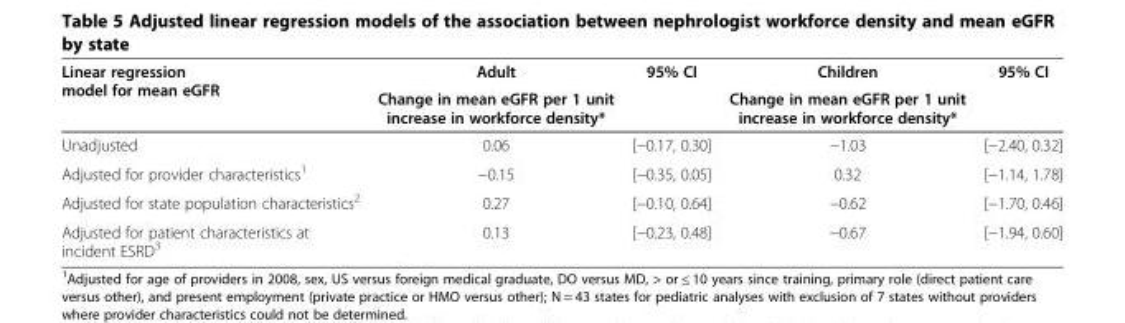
<table><thead><tr><td rowspan="2">Linear regression model for mean eGFR</td><td rowspan="2">Adult Change in mean eGFR per 1 unit increase in workforce density*</td><td rowspan="2">95% CI</td><td rowspan="2">Children Change in mean eGFR per 1 unit increase in workforce density*</td><td rowspan="2">95% CI</td></tr><tr></tr></thead><tbody><tr><td>Unadjusted</td><td>0.06</td><td>[−0.17, 0.30]</td><td>−1.03</td><td>[−2.40, 0.32]</td></tr><tr><td>Adjusted for provider characteristics<sup>1</sup></td><td>−0.15</td><td>[−0.35, 0.05]</td><td>0.32</td><td>[−1.14, 1.78]</td></tr><tr><td>Adjusted for state population characteristics<sup>2</sup></td><td>0.27</td><td>[−0.10, 0.64]</td><td>−0.62</td><td>[−1.70, 0.46]</td></tr><tr><td>Adjusted for patient characteristics at incident ESRD<sup>3</sup></td><td>0.13</td><td>[−0.23, 0.48]</td><td>−0.67</td><td>[−1.94, 0.60]</td></tr></tbody></table>